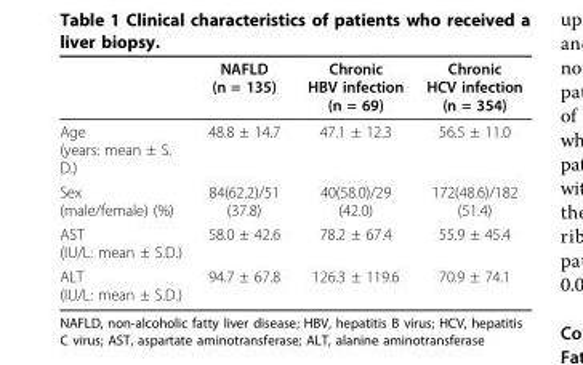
<table><thead><tr><td></td><td>NAFLD (n = 135)</td><td>Chronic HBV infection (n = 69)</td><td>Chronic HCV infection (n = 354)</td></tr></thead><tbody><tr><td>Age (years: mean ± S. D.)</td><td>48.8 ± 14.7</td><td>47.1 ± 12.3</td><td>56.5 ± 11.0</td></tr><tr><td>Sex (male/female) (%)</td><td>84(62.2)/51 (37.8)</td><td>40(58.0)/29 (42.0)</td><td>172(48.6)/182 (51.4)</td></tr><tr><td>AST (IU/L: mean ± S.D.)</td><td>58.0 ± 42.6</td><td>78.2 ± 67.4</td><td>55.9 ± 45.4</td></tr><tr><td>ALT (IU/L: mean ± S.D.)</td><td>94.7 ± 67.8</td><td>126.3 ± 119.6</td><td>70.9 ± 74.1</td></tr></tbody></table>